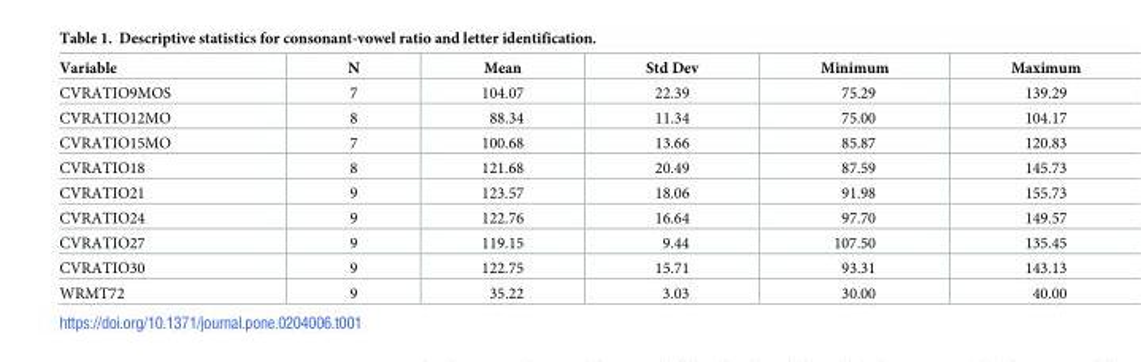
<table><thead><tr><td>Variable</td><td>N</td><td>Mean</td><td>Std Dev</td><td>Minimum</td><td>Maximum</td></tr></thead><tbody><tr><td>CVRATIO9MOS</td><td>7</td><td>104.07</td><td>22.39</td><td>75.29</td><td>139.29</td></tr><tr><td>CVRATIO12MO</td><td>8</td><td>88.34</td><td>11.34</td><td>75.00</td><td>104.17</td></tr><tr><td>CVRATIO15MO</td><td>7</td><td>100.68</td><td>13.66</td><td>85.87</td><td>120.83</td></tr><tr><td>CVRATIO18</td><td>8</td><td>121.68</td><td>20.49</td><td>87.59</td><td>145.73</td></tr><tr><td>CVRATIO21</td><td>9</td><td>123.57</td><td>18.06</td><td>91.98</td><td>155.73</td></tr><tr><td>CVRATIO24</td><td>9</td><td>122.76</td><td>16.64</td><td>97.70</td><td>149.57</td></tr><tr><td>CVRATIO27</td><td>9</td><td>119.15</td><td>9.44</td><td>107.50</td><td>135.45</td></tr><tr><td>CVRATIO30</td><td>9</td><td>122.75</td><td>15.71</td><td>93.31</td><td>143.13</td></tr><tr><td>WRMT72</td><td>9</td><td>35.22</td><td>3.03</td><td>30.00</td><td>40.00</td></tr></tbody></table>